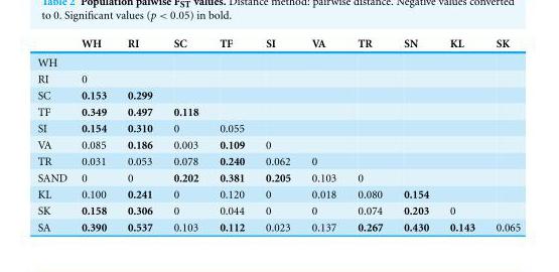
<table><thead><tr><td></td><td>WH</td><td>RI</td><td>SC</td><td>TF</td><td>SI</td><td>VA</td><td>TR</td><td>SN</td><td>KL</td><td>SK</td></tr></thead><tbody><tr><td colspan="11">WH</td></tr><tr><td>RI</td><td>0</td><td></td><td></td><td></td><td></td><td></td><td></td><td></td><td></td><td></td></tr><tr><td>SC</td><td>0.153</td><td>0.299</td><td></td><td></td><td></td><td></td><td></td><td></td><td></td><td></td></tr><tr><td>TF</td><td>0.349</td><td>0.497</td><td>0.118</td><td></td><td></td><td></td><td></td><td></td><td></td><td></td></tr><tr><td>SI</td><td>0.154</td><td>0.310</td><td>0</td><td>0.055</td><td></td><td></td><td></td><td></td><td></td><td></td></tr><tr><td>VA</td><td>0.085</td><td>0.186</td><td>0.003</td><td>0.109</td><td>0</td><td></td><td></td><td></td><td></td><td></td></tr><tr><td>TR</td><td>0.031</td><td>0.053</td><td>0.078</td><td>0.240</td><td>0.062</td><td>0</td><td></td><td></td><td></td><td></td></tr><tr><td>SAND</td><td>0</td><td>0</td><td>0.202</td><td>0.381</td><td>0.205</td><td>0.103</td><td>0</td><td></td><td></td><td></td></tr><tr><td>KL</td><td>0.100</td><td>0.241</td><td>0</td><td>0.120</td><td>0</td><td>0.018</td><td>0.080</td><td>0.154</td><td></td><td></td></tr><tr><td>SK</td><td>0.158</td><td>0.306</td><td>0</td><td>0.044</td><td>0</td><td>0</td><td>0.074</td><td>0.203</td><td>0</td><td></td></tr><tr><td>SA</td><td>0.390</td><td>0.537</td><td>0.103</td><td>0.112</td><td>0.023</td><td>0.137</td><td>0.267</td><td>0.430</td><td>0.143</td><td>0.065</td></tr></tbody></table>